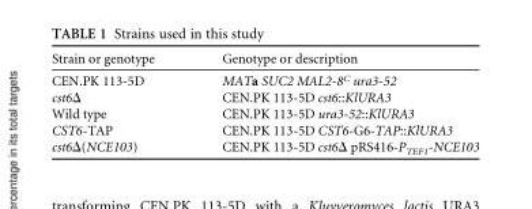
<table><thead><tr><td>Strain or genotype</td><td>Genotype or description</td></tr></thead><tbody><tr><td>CEN.PK 113-5D</td><td>MATa SUC2 MAL2-8<sup>C</sup> ura3-52</td></tr><tr><td>cst6Δ</td><td>CEN.PK 113-5D cst6::KlURA3</td></tr><tr><td>Wild type</td><td>CEN.PK 113-5D ura3-52::KlURA3</td></tr><tr><td>CST6-TAP</td><td>CEN.PK 113-5D CST6-G6-TAP::KlURA3</td></tr><tr><td>cst6Δ(NCE103)</td><td>CEN.PK 113-5D cst6Δ pRS416-P<sub>TEF1</sub>-NCE103</td></tr></tbody></table>